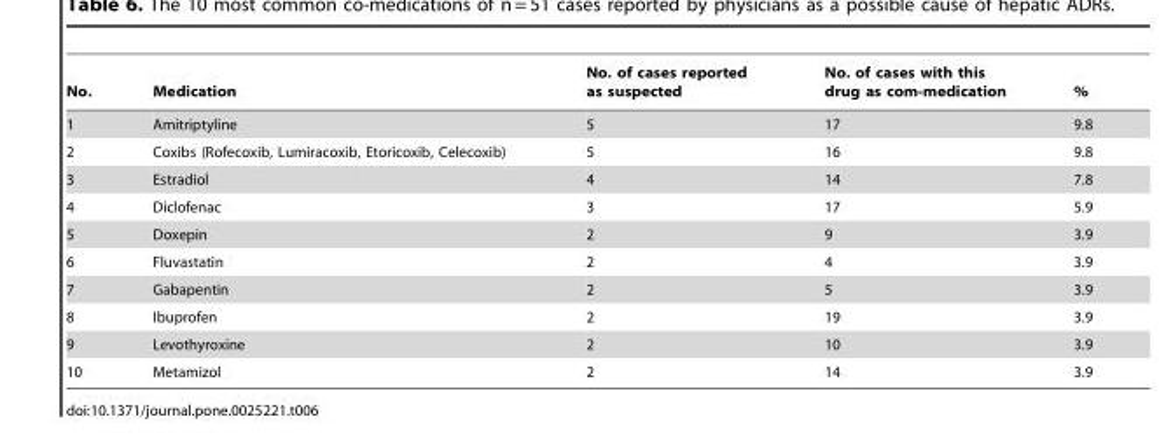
<table><thead><tr><td>No.</td><td>Medication</td><td>No. of cases reported as suspected</td><td>No. of cases with this drug as com-medication</td><td>%</td></tr></thead><tbody><tr><td>1</td><td>Amitriptyline</td><td>5</td><td>17</td><td>9.8</td></tr><tr><td>2</td><td>Coxibs (Rofecoxib, Lumiracoxib, Etoricoxib, Celecoxib)</td><td>5</td><td>16</td><td>9.8</td></tr><tr><td>3</td><td>Estradiol</td><td>4</td><td>14</td><td>7.8</td></tr><tr><td>4</td><td>Diclofenac</td><td>3</td><td>17</td><td>5.9</td></tr><tr><td>5</td><td>Doxepin</td><td>2</td><td>9</td><td>3.9</td></tr><tr><td>6</td><td>Fluvastatin</td><td>2</td><td>4</td><td>3.9</td></tr><tr><td>7</td><td>Gabapentin</td><td>2</td><td>5</td><td>3.9</td></tr><tr><td>8</td><td>Ibuprofen</td><td>2</td><td>19</td><td>3.9</td></tr><tr><td>9</td><td>Levothyroxine</td><td>2</td><td>10</td><td>3.9</td></tr><tr><td>10</td><td>Metamizol</td><td>2</td><td>14</td><td>3.9</td></tr></tbody></table>